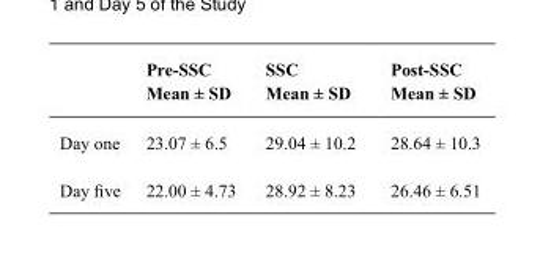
<table><thead><tr><td></td><td>Pre-SSC Mean ± SD</td><td>SSC Mean ± SD</td><td>Post-SSC Mean ± SD</td></tr></thead><tbody><tr><td>Day one</td><td>23.07 ± 6.5</td><td>29.04 ± 10.2</td><td>28.64 ± 10.3</td></tr><tr><td>Day five</td><td>22.00 ± 4.73</td><td>28.92 ± 8.23</td><td>26.46 ± 6.51</td></tr></tbody></table>